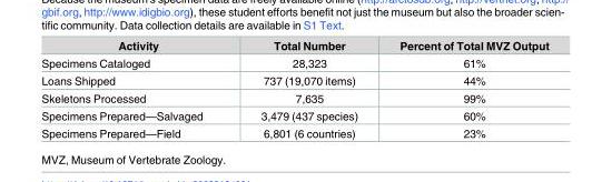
<table><thead><tr><td>Activity</td><td>Total Number</td><td>Percent of Total MVZ Output</td></tr></thead><tbody><tr><td>Specimens Cataloged</td><td>28,323</td><td>61%</td></tr><tr><td>Loans Shipped</td><td>737 (19,070 items)</td><td>44%</td></tr><tr><td>Skeletons Processed</td><td>7,635</td><td>99%</td></tr><tr><td>Specimens Prepared—Salvaged</td><td>3,479 (437 species)</td><td>60%</td></tr><tr><td>Specimens Prepared—Field</td><td>6,801 (6 countries)</td><td>23%</td></tr></tbody></table>